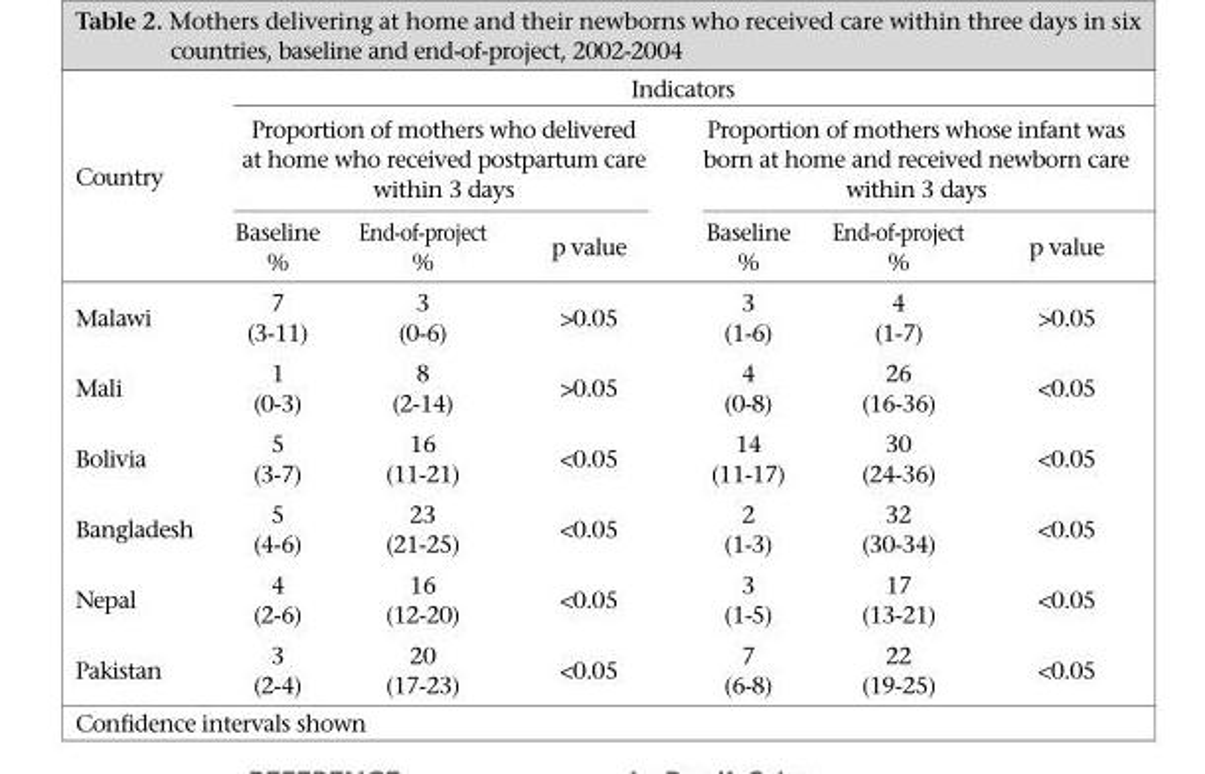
<table><thead><tr><td rowspan="3">Country</td><td colspan="6">Indicators</td></tr><tr><td colspan="3">Proportion of mothers who delivered at home who received postpartum care within 3 days</td><td colspan="3">Proportion of mothers whose infant was born at home and received newborn care within 3 days</td></tr><tr><td>Baseline %</td><td>End-of-project %</td><td>p value</td><td>Baseline %</td><td>End-of-project %</td><td>p value</td></tr></thead><tbody><tr><td>Malawi</td><td>7 (3-11)</td><td>3 (0-6)</td><td>&gt;0.05</td><td>3 (1-6)</td><td>4 (1-7)</td><td>&gt;0.05</td></tr><tr><td>Mali</td><td>1 (0-3)</td><td>8 (2-14)</td><td>&gt;0.05</td><td>4 (0-8)</td><td>26 (16-36)</td><td>&lt;0.05</td></tr><tr><td>Bolivia</td><td>5 (3-7)</td><td>16 (11-21)</td><td>&lt;0.05</td><td>14 (11-17)</td><td>30 (24-36)</td><td>&lt;0.05</td></tr><tr><td>Bangladesh</td><td>5 (4-6)</td><td>23 (21-25)</td><td>&lt;0.05</td><td>2 (1-3)</td><td>32 (30-34)</td><td>&lt;0.05</td></tr><tr><td>Nepal</td><td>4 (2-6)</td><td>16 (12-20)</td><td>&lt;0.05</td><td>3 (1-5)</td><td>17 (13-21)</td><td>&lt;0.05</td></tr><tr><td>Pakistan</td><td>3 (2-4)</td><td>20 (17-23)</td><td>&lt;0.05</td><td>7 (6-8)</td><td>22 (19-25)</td><td>&lt;0.05</td></tr></tbody></table>